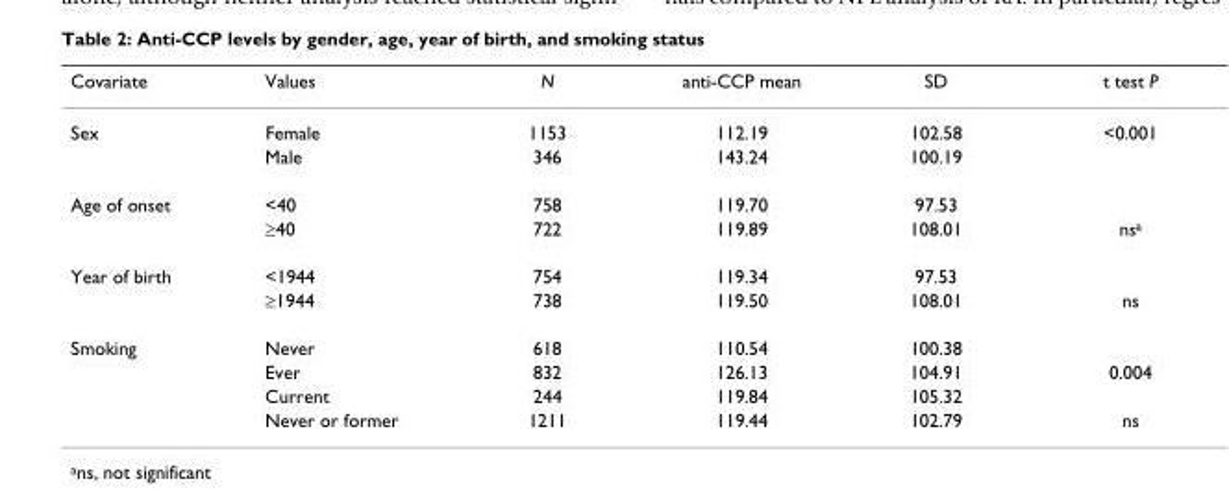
<table><thead><tr><td>Covariate</td><td>Values</td><td>N</td><td>anti-CCP mean</td><td>SD</td><td>t test P</td></tr></thead><tbody><tr><td rowspan="2">Sex</td><td>Female</td><td>1153</td><td>112.19</td><td>102.58</td><td>&lt;0.001</td></tr><tr><td>Male</td><td>346</td><td>143.24</td><td>100.19</td><td></td></tr><tr><td rowspan="2">Age of onset</td><td>&lt;40</td><td>758</td><td>119.70</td><td>97.53</td><td></td></tr><tr><td>≥40</td><td>722</td><td>119.89</td><td>108.01</td><td>ns<sup>a</sup></td></tr><tr><td rowspan="2">Year of birth</td><td>&lt;1944</td><td>754</td><td>119.34</td><td>97.53</td><td></td></tr><tr><td>≥1944</td><td>738</td><td>119.50</td><td>108.01</td><td>ns</td></tr><tr><td rowspan="4">Smoking</td><td>Never</td><td>618</td><td>110.54</td><td>100.38</td><td></td></tr><tr><td>Ever</td><td>832</td><td>126.13</td><td>104.91</td><td>0.004</td></tr><tr><td>Current</td><td>244</td><td>119.84</td><td>105.32</td><td></td></tr><tr><td>Never or former</td><td>1211</td><td>119.44</td><td>102.79</td><td>ns</td></tr></tbody></table>